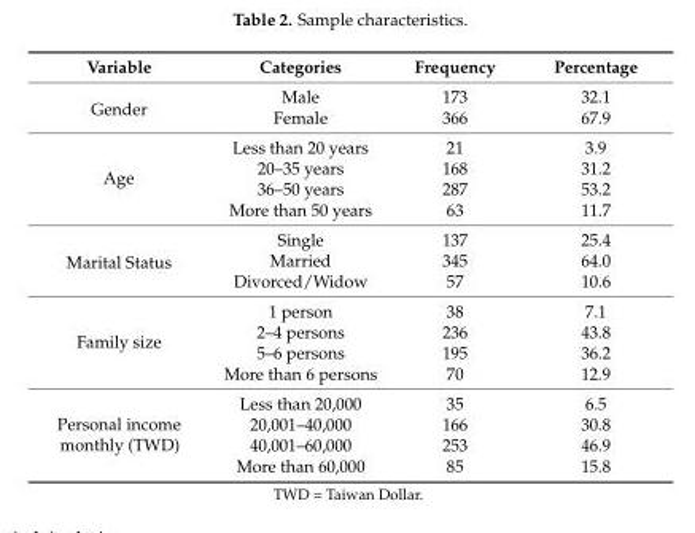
<table><thead><tr><td>Variable</td><td>Categories</td><td>Frequency</td><td>Percentage</td></tr></thead><tbody><tr><td rowspan="2">Gender</td><td>Male</td><td>173</td><td>32.1</td></tr><tr><td>Female</td><td>366</td><td>67.9</td></tr><tr><td rowspan="4">Age</td><td>Less than 20 years</td><td>21</td><td>3.9</td></tr><tr><td>20–35 years</td><td>168</td><td>31.2</td></tr><tr><td>36–50 years</td><td>287</td><td>53.2</td></tr><tr><td>More than 50 years</td><td>63</td><td>11.7</td></tr><tr><td rowspan="3">Marital Status</td><td>Single</td><td>137</td><td>25.4</td></tr><tr><td>Married</td><td>345</td><td>64.0</td></tr><tr><td>Divorced/Widow</td><td>57</td><td>10.6</td></tr><tr><td rowspan="4">Family size</td><td>1 person</td><td>38</td><td>7.1</td></tr><tr><td>2–4 persons</td><td>236</td><td>43.8</td></tr><tr><td>5–6 persons</td><td>195</td><td>36.2</td></tr><tr><td>More than 6 persons</td><td>70</td><td>12.9</td></tr><tr><td rowspan="4">Personal income monthly (TWD)</td><td>Less than 20,000</td><td>35</td><td>6.5</td></tr><tr><td>20,001–40,000</td><td>166</td><td>30.8</td></tr><tr><td>40,001–60,000</td><td>253</td><td>46.9</td></tr><tr><td>More than 60,000</td><td>85</td><td>15.8</td></tr></tbody></table>